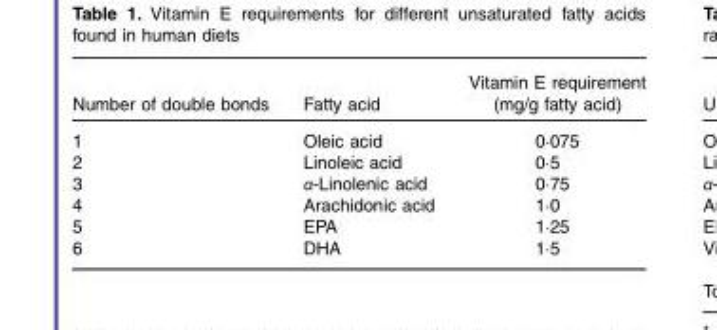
<table><thead><tr><td>Number of double bonds</td><td>Fatty acid</td><td>Vitamin E requirement (mg/g fatty acid)</td></tr></thead><tbody><tr><td>1</td><td>Oleic acid</td><td>0·075</td></tr><tr><td>2</td><td>Linoleic acid</td><td>0·5</td></tr><tr><td>3</td><td>α-Linolenic acid</td><td>0·75</td></tr><tr><td>4</td><td>Arachidonic acid</td><td>1·0</td></tr><tr><td>5</td><td>EPA</td><td>1·25</td></tr><tr><td>6</td><td>DHA</td><td>1·5</td></tr></tbody></table>